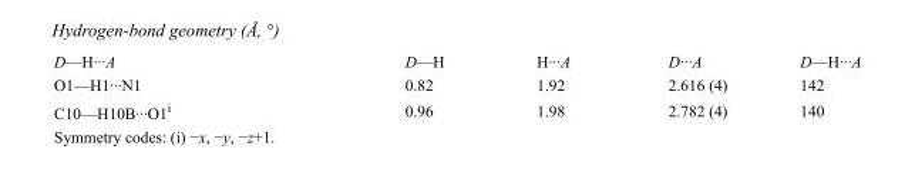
<table><tbody><tr><td>D—H···A</td><td>D—H</td><td>H···A</td><td>D···A</td><td>D—H···A</td></tr><tr><td>O1—H1···N1</td><td>0.82</td><td>1.92</td><td>2.616 (4)</td><td>142</td></tr><tr><td>C10—H10B···O1<sup>i</sup></td><td>0.96</td><td>1.98</td><td>2.782 (4)</td><td>140</td></tr></tbody></table>